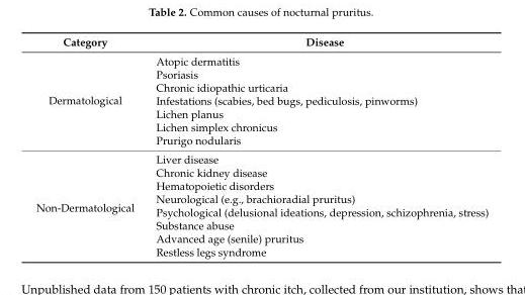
<table><thead><tr><td>Category</td><td>Disease</td></tr></thead><tbody><tr><td rowspan="7">Dermatological</td><td>Atopic dermatitis</td></tr><tr><td>Psoriasis</td></tr><tr><td>Chronic idiopathic urticaria</td></tr><tr><td>Infestations (scabies, bed bugs, pediculosis, pinworms)</td></tr><tr><td>Lichen planus</td></tr><tr><td>Lichen simplex chronicus</td></tr><tr><td>Prurigo nodularis</td></tr><tr><td rowspan="8">Non-Dermatological</td><td>Liver disease</td></tr><tr><td>Chronic kidney disease</td></tr><tr><td>Hematopoietic disorders</td></tr><tr><td>Neurological (e.g., brachioradial pruritus)</td></tr><tr><td>Psychological (delusional ideations, depression, schizophrenia, stress)</td></tr><tr><td>Substance abuse</td></tr><tr><td>Advanced age (senile) pruritus</td></tr><tr><td>Restless legs syndrome</td></tr></tbody></table>